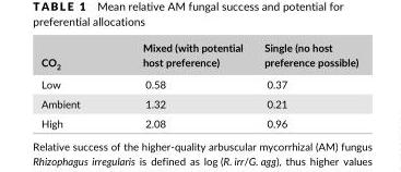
<table><thead><tr><td>CO<sub>2</sub></td><td>Mixed (with potential host preference)</td><td>Single (no host preference possible)</td></tr></thead><tbody><tr><td>Low</td><td>0.58</td><td>0.37</td></tr><tr><td>Ambient</td><td>1.32</td><td>0.21</td></tr><tr><td>High</td><td>2.08</td><td>0.96</td></tr></tbody></table>